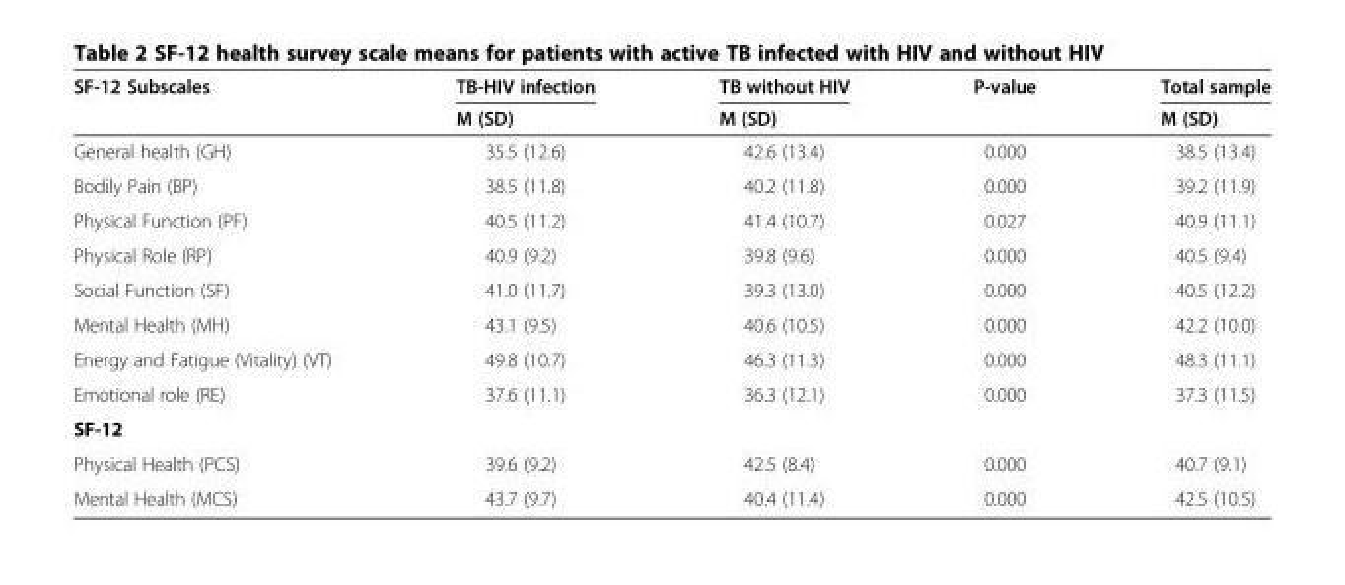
<table><thead><tr><td rowspan="2">SF-12 Subscales</td><td rowspan="2">TB-HIV infection M (SD)</td><td rowspan="2">TB without HIV M (SD)</td><td rowspan="2">P-value</td><td rowspan="2">Total sample M (SD)</td></tr><tr></tr></thead><tbody><tr><td>General health (GH)</td><td>35.5 (12.6)</td><td>42.6 (13.4)</td><td>0.000</td><td>38.5 (13.4)</td></tr><tr><td>Bodily Pain (BP)</td><td>38.5 (11.8)</td><td>40.2 (11.8)</td><td>0.000</td><td>39.2 (11.9)</td></tr><tr><td>Physical Function (PF)</td><td>40.5 (11.2)</td><td>41.4 (10.7)</td><td>0.027</td><td>40.9 (11.1)</td></tr><tr><td>Physical Role (RP)</td><td>40.9 (9.2)</td><td>39.8 (9.6)</td><td>0.000</td><td>40.5 (9.4)</td></tr><tr><td>Social Function (SF)</td><td>41.0 (11.7)</td><td>39.3 (13.0)</td><td>0.000</td><td>40.5 (12.2)</td></tr><tr><td>Mental Health (MH)</td><td>43.1 (9.5)</td><td>40.6 (10.5)</td><td>0.000</td><td>42.2 (10.0)</td></tr><tr><td>Energy and Fatigue (Vitality) (VT)</td><td>49.8 (10.7)</td><td>46.3 (11.3)</td><td>0.000</td><td>48.3 (11.1)</td></tr><tr><td>Emotional role (RE)</td><td>37.6 (11.1)</td><td>36.3 (12.1)</td><td>0.000</td><td>37.3 (11.5)</td></tr><tr><td colspan="5">SF-12</td></tr><tr><td>Physical Health (PCS)</td><td>39.6 (9.2)</td><td>42.5 (8.4)</td><td>0.000</td><td>40.7 (9.1)</td></tr><tr><td>Mental Health (MCS)</td><td>43.7 (9.7)</td><td>40.4 (11.4)</td><td>0.000</td><td>42.5 (10.5)</td></tr></tbody></table>